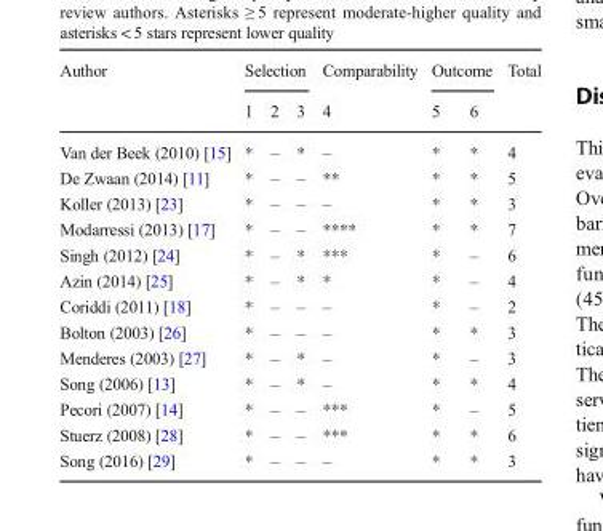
<table><thead><tr><td rowspan="2">Author</td><td colspan="3">Selection</td><td rowspan="2">Comparability 4</td><td colspan="2">Outcome</td><td rowspan="2">Total</td></tr><tr><td>1</td><td>2</td><td>3</td><td>5</td><td>6</td></tr></thead><tbody><tr><td>Van der Beek (2010) [15]</td><td>*</td><td>–</td><td>*</td><td>–</td><td>*</td><td>*</td><td>4</td></tr><tr><td>De Zwaan (2014) [11]</td><td>*</td><td>–</td><td>–</td><td>**</td><td>*</td><td>*</td><td>5</td></tr><tr><td>Koller (2013) [23]</td><td>*</td><td>–</td><td>–</td><td>–</td><td>*</td><td>*</td><td>3</td></tr><tr><td>Modarressi (2013) [17]</td><td>*</td><td>–</td><td>–</td><td>****</td><td>*</td><td>*</td><td>7</td></tr><tr><td>Singh (2012) [24]</td><td>*</td><td>–</td><td>*</td><td>***</td><td>*</td><td>–</td><td>6</td></tr><tr><td>Azin (2014) [25]</td><td>*</td><td>–</td><td>*</td><td>*</td><td>*</td><td>–</td><td>4</td></tr><tr><td>Coriddi (2011) [18]</td><td>*</td><td>–</td><td>–</td><td>–</td><td>*</td><td>–</td><td>2</td></tr><tr><td>Bolton (2003) [26]</td><td>*</td><td>–</td><td>–</td><td>–</td><td>*</td><td>*</td><td>3</td></tr><tr><td>Menderes (2003) [27]</td><td>*</td><td>–</td><td>*</td><td>–</td><td>*</td><td>–</td><td>3</td></tr><tr><td>Song (2006) [13]</td><td>*</td><td>–</td><td>*</td><td>–</td><td>*</td><td>*</td><td>4</td></tr><tr><td>Pecori (2007) [14]</td><td>*</td><td>–</td><td>–</td><td>***</td><td>*</td><td>–</td><td>5</td></tr><tr><td>Stuerz (2008) [28]</td><td>*</td><td>–</td><td>–</td><td>***</td><td>*</td><td>*</td><td>6</td></tr><tr><td>Song (2016) [29]</td><td>*</td><td>–</td><td>–</td><td>–</td><td>*</td><td>*</td><td>3</td></tr></tbody></table>